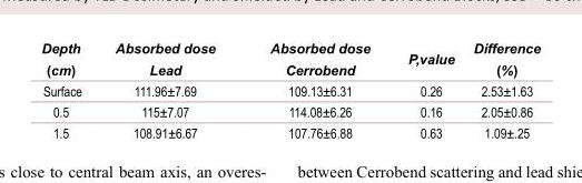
<table><thead><tr><td>Depth (cm)</td><td>Absorbed dose Lead</td><td>Absorbed dose Cerrobend</td><td>P,value</td><td>Difference (%)</td></tr></thead><tbody><tr><td>Surface</td><td>111.96±7.69</td><td>109.13±6.31</td><td>0.26</td><td>2.53±1.63</td></tr><tr><td>0.5</td><td>115±7.07</td><td>114.08±6.26</td><td>0.16</td><td>2.05±0.86</td></tr><tr><td>1.5</td><td>108.91±6.67</td><td>107.76±6.88</td><td>0.63</td><td>1.09±.25</td></tr></tbody></table>